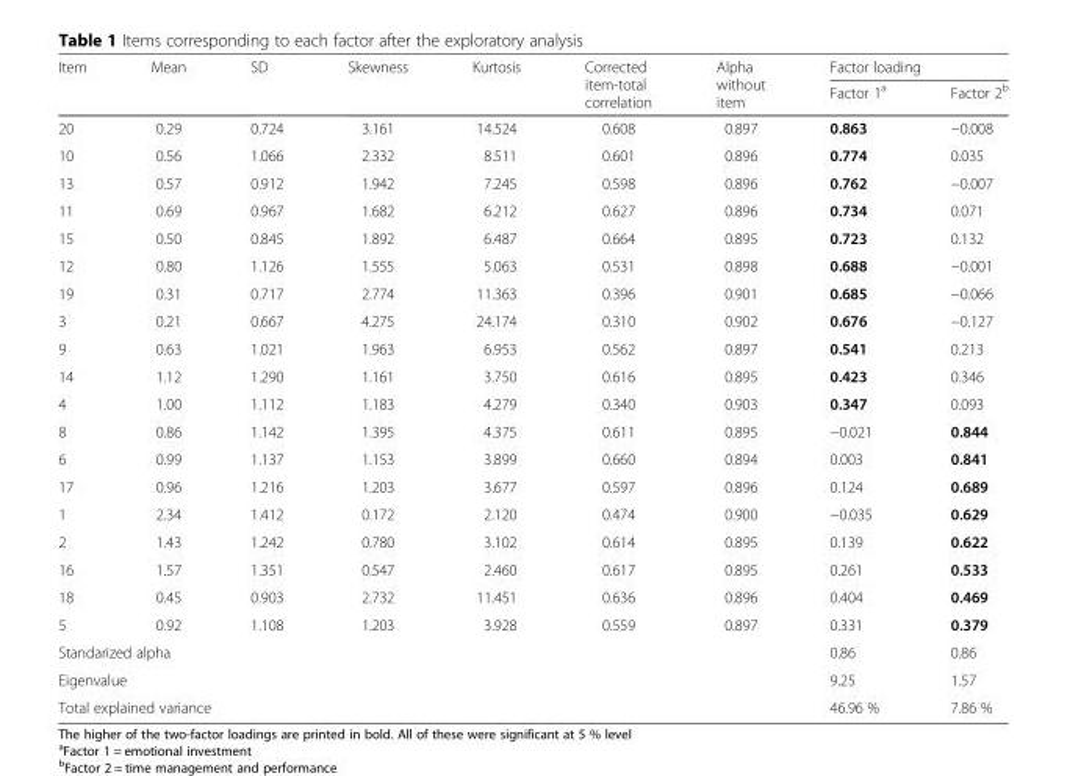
<table><thead><tr><td rowspan="2">Item</td><td rowspan="2">Mean</td><td rowspan="2">SD</td><td rowspan="2">Skewness</td><td rowspan="2">Kurtosis</td><td rowspan="2">Corrected item-total correlation</td><td rowspan="2">Alpha without item</td><td colspan="2">Factor loading</td></tr><tr><td>Factor 1<sup>a</sup></td><td>Factor 2<sup>b</sup></td></tr></thead><tbody><tr><td>20</td><td>0.29</td><td>0.724</td><td>3.161</td><td>14.524</td><td>0.608</td><td>0.897</td><td>0.863</td><td>−0.008</td></tr><tr><td>10</td><td>0.56</td><td>1.066</td><td>2.332</td><td>8.511</td><td>0.601</td><td>0.896</td><td>0.774</td><td>0.035</td></tr><tr><td>13</td><td>0.57</td><td>0.912</td><td>1.942</td><td>7.245</td><td>0.598</td><td>0.896</td><td>0.762</td><td>−0.007</td></tr><tr><td>11</td><td>0.69</td><td>0.967</td><td>1.682</td><td>6.212</td><td>0.627</td><td>0.896</td><td>0.734</td><td>0.071</td></tr><tr><td>15</td><td>0.50</td><td>0.845</td><td>1.892</td><td>6.487</td><td>0.664</td><td>0.895</td><td>0.723</td><td>0.132</td></tr><tr><td>12</td><td>0.80</td><td>1.126</td><td>1.555</td><td>5.063</td><td>0.531</td><td>0.898</td><td>0.688</td><td>−0.001</td></tr><tr><td>19</td><td>0.31</td><td>0.717</td><td>2.774</td><td>11.363</td><td>0.396</td><td>0.901</td><td>0.685</td><td>−0.066</td></tr><tr><td>3</td><td>0.21</td><td>0.667</td><td>4.275</td><td>24.174</td><td>0.310</td><td>0.902</td><td>0.676</td><td>−0.127</td></tr><tr><td>9</td><td>0.63</td><td>1.021</td><td>1.963</td><td>6.953</td><td>0.562</td><td>0.897</td><td>0.541</td><td>0.213</td></tr><tr><td>14</td><td>1.12</td><td>1.290</td><td>1.161</td><td>3.750</td><td>0.616</td><td>0.895</td><td>0.423</td><td>0.346</td></tr><tr><td>4</td><td>1.00</td><td>1.112</td><td>1.183</td><td>4.279</td><td>0.340</td><td>0.903</td><td>0.347</td><td>0.093</td></tr><tr><td>8</td><td>0.86</td><td>1.142</td><td>1.395</td><td>4.375</td><td>0.611</td><td>0.895</td><td>−0.021</td><td>0.844</td></tr><tr><td>6</td><td>0.99</td><td>1.137</td><td>1.153</td><td>3.899</td><td>0.660</td><td>0.894</td><td>0.003</td><td>0.841</td></tr><tr><td>17</td><td>0.96</td><td>1.216</td><td>1.203</td><td>3.677</td><td>0.597</td><td>0.896</td><td>0.124</td><td>0.689</td></tr><tr><td>1</td><td>2.34</td><td>1.412</td><td>0.172</td><td>2.120</td><td>0.474</td><td>0.900</td><td>−0.035</td><td>0.629</td></tr><tr><td>2</td><td>1.43</td><td>1.242</td><td>0.780</td><td>3.102</td><td>0.614</td><td>0.895</td><td>0.139</td><td>0.622</td></tr><tr><td>16</td><td>1.57</td><td>1.351</td><td>0.547</td><td>2.460</td><td>0.617</td><td>0.895</td><td>0.261</td><td>0.533</td></tr><tr><td>18</td><td>0.45</td><td>0.903</td><td>2.732</td><td>11.451</td><td>0.636</td><td>0.896</td><td>0.404</td><td>0.469</td></tr><tr><td>5</td><td>0.92</td><td>1.108</td><td>1.203</td><td>3.928</td><td>0.559</td><td>0.897</td><td>0.331</td><td>0.379</td></tr><tr><td colspan="7">Standarized alpha</td><td>0.86</td><td>0.86</td></tr><tr><td colspan="7">Eigenvalue</td><td>9.25</td><td>1.57</td></tr><tr><td colspan="7">Total explained variance</td><td>46.96 %</td><td>7.86 %</td></tr></tbody></table>